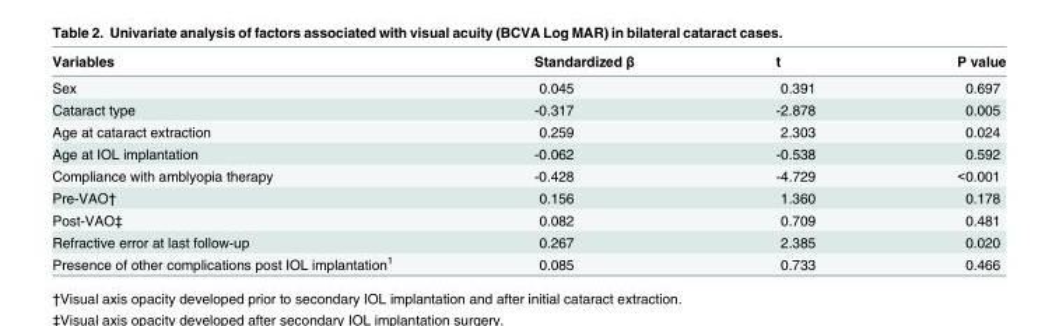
<table><thead><tr><td>Variables</td><td>Standardized β</td><td>t</td><td>P value</td></tr></thead><tbody><tr><td>Sex</td><td>0.045</td><td>0.391</td><td>0.697</td></tr><tr><td>Cataract type</td><td>-0.317</td><td>-2.878</td><td>0.005</td></tr><tr><td>Age at cataract extraction</td><td>0.259</td><td>2.303</td><td>0.024</td></tr><tr><td>Age at IOL implantation</td><td>-0.062</td><td>-0.538</td><td>0.592</td></tr><tr><td>Compliance with amblyopia therapy</td><td>-0.428</td><td>-4.729</td><td>&lt;0.001</td></tr><tr><td>Pre-VAO†</td><td>0.156</td><td>1.360</td><td>0.178</td></tr><tr><td>Post-VAO‡</td><td>0.082</td><td>0.709</td><td>0.481</td></tr><tr><td>Refractive error at last follow-up</td><td>0.267</td><td>2.385</td><td>0.020</td></tr><tr><td>Presence of other complications post IOL implantation<sup>1</sup></td><td>0.085</td><td>0.733</td><td>0.466</td></tr></tbody></table>